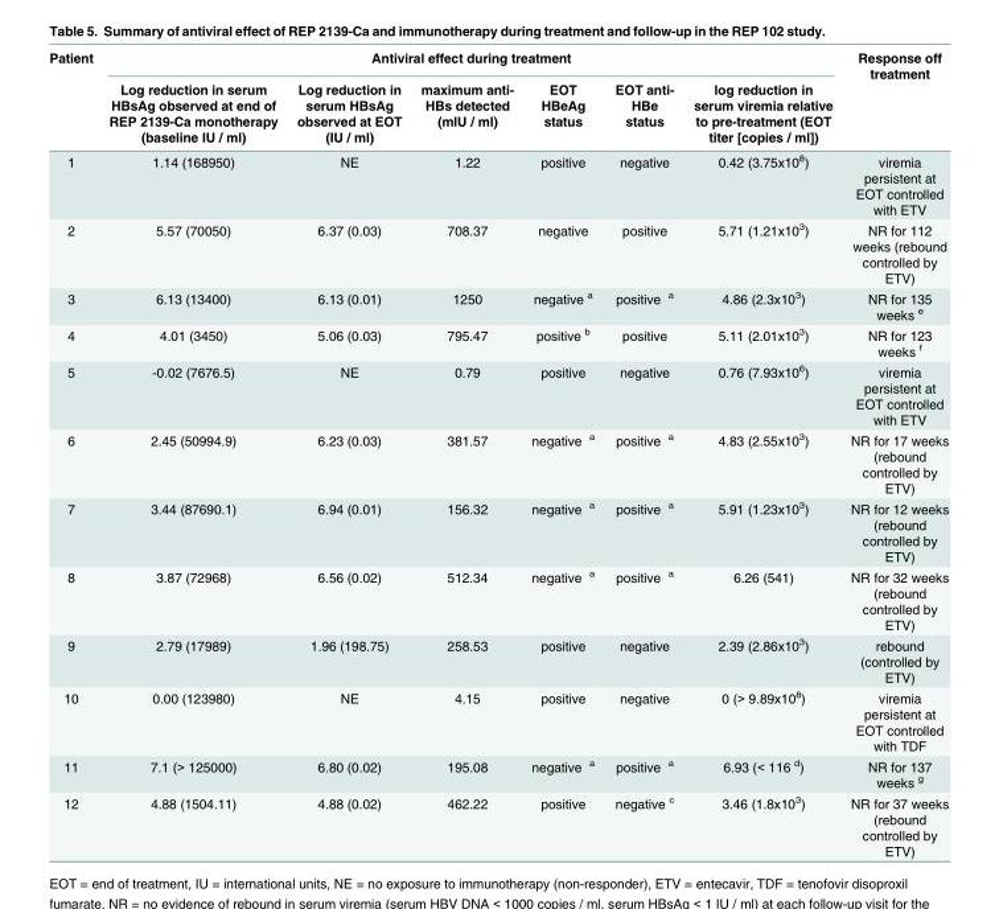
<table><thead><tr><td rowspan="2">Patient</td><td colspan="6">Antiviral effect during treatment</td><td rowspan="2">Response off treatment</td></tr><tr><td>Log reduction in serum HBsAg observed at end of REP 2139-Ca monotherapy (baseline IU / ml)</td><td>Log reduction in serum HBsAg observed at EOT (IU / ml)</td><td>maximum anti- HBs detected (mIU / ml)</td><td>EOT HBeAg status</td><td>EOT anti- HBe status</td><td>log reduction in serum viremia relative to pre-treatment (EOT titer [copies / ml])</td></tr></thead><tbody><tr><td>1</td><td>1.14 (168950)</td><td>NE</td><td>1.22</td><td>positive</td><td>negative</td><td>0.42 (3.75x10<sup>8</sup>)</td><td>viremia persistent at EOT controlled with ETV</td></tr><tr><td>2</td><td>5.57 (70050)</td><td>6.37 (0.03)</td><td>708.37</td><td>negative</td><td>positive</td><td>5.71 (1.21x10<sup>3</sup>)</td><td>NR for 112 weeks (rebound controlled by ETV)</td></tr><tr><td>3</td><td>6.13 (13400)</td><td>6.13 (0.01)</td><td>1250</td><td>negative <sup>a</sup></td><td>positive <sup>a</sup></td><td>4.86 (2.3x10<sup>3</sup>)</td><td>NR for 135 weeks <sup>e</sup></td></tr><tr><td>4</td><td>4.01 (3450)</td><td>5.06 (0.03)</td><td>795.47</td><td>positive <sup>b</sup></td><td>positive</td><td>5.11 (2.01x10<sup>3</sup>)</td><td>NR for 123 weeks <sup>f</sup></td></tr><tr><td>5</td><td>-0.02 (7676.5)</td><td>NE</td><td>0.79</td><td>positive</td><td>negative</td><td>0.76 (7.93x10<sup>6</sup>)</td><td>viremia persistent at EOT controlled with ETV</td></tr><tr><td>6</td><td>2.45 (50994.9)</td><td>6.23 (0.03)</td><td>381.57</td><td>negative <sup>a</sup></td><td>positive <sup>a</sup></td><td>4.83 (2.55x10<sup>3</sup>)</td><td>NR for 17 weeks (rebound controlled by ETV)</td></tr><tr><td>7</td><td>3.44 (87690.1)</td><td>6.94 (0.01)</td><td>156.32</td><td>negative <sup>a</sup></td><td>positive <sup>a</sup></td><td>5.91 (1.23x10<sup>3</sup>)</td><td>NR for 12 weeks (rebound controlled by ETV)</td></tr><tr><td>8</td><td>3.87 (72968)</td><td>6.56 (0.02)</td><td>512.34</td><td>negative <sup>a</sup></td><td>positive <sup>a</sup></td><td>6.26 (541)</td><td>NR for 32 weeks (rebound controlled by ETV)</td></tr><tr><td>9</td><td>2.79 (17989)</td><td>1.96 (198.75)</td><td>258.53</td><td>positive</td><td>negative</td><td>2.39 (2.86x10<sup>3</sup>)</td><td>rebound (controlled by ETV)</td></tr><tr><td>10</td><td>0.00 (123980)</td><td>NE</td><td>4.15</td><td>positive</td><td>negative</td><td>0 (&gt; 9.89x10<sup>8</sup>)</td><td>viremia persistent at EOT controlled with TDF</td></tr><tr><td>11</td><td>7.1 (&gt; 125000)</td><td>6.80 (0.02)</td><td>195.08</td><td>negative <sup>a</sup></td><td>positive <sup>a</sup></td><td>6.93 (&lt; 116 <sup>d</sup>)</td><td>NR for 137 weeks <sup>g</sup></td></tr><tr><td>12</td><td>4.88 (1504.11)</td><td>4.88 (0.02)</td><td>462.22</td><td>positive</td><td>negative <sup>c</sup></td><td>3.46 (1.8x10<sup>3</sup>)</td><td>NR for 37 weeks (rebound controlled by ETV)</td></tr></tbody></table>